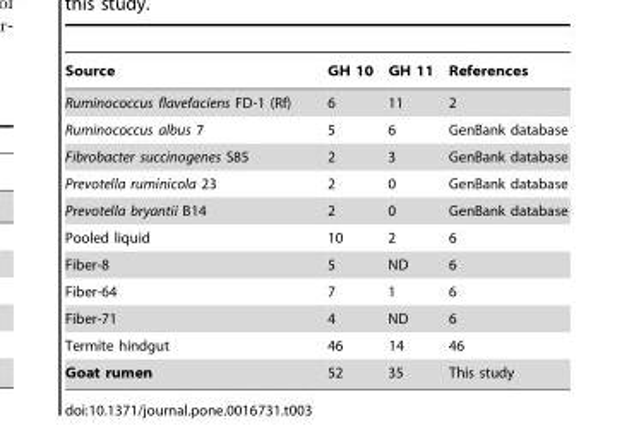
<table><thead><tr><td>Source</td><td>GH 10</td><td>GH 11</td><td>References</td></tr></thead><tbody><tr><td>Ruminococcus flavefaciens FD-1 (Rf)</td><td>6</td><td>11</td><td>2</td></tr><tr><td>Ruminococcus albus 7</td><td>5</td><td>6</td><td>GenBank database</td></tr><tr><td>Fibrobacter succinogenes S85</td><td>2</td><td>3</td><td>GenBank database</td></tr><tr><td>Prevotella ruminicola 23</td><td>2</td><td>0</td><td>GenBank database</td></tr><tr><td>Prevotella bryantii B14</td><td>2</td><td>0</td><td>GenBank database</td></tr><tr><td>Pooled liquid</td><td>10</td><td>2</td><td>6</td></tr><tr><td>Fiber-8</td><td>5</td><td>ND</td><td>6</td></tr><tr><td>Fiber-64</td><td>7</td><td>1</td><td>6</td></tr><tr><td>Fiber-71</td><td>4</td><td>ND</td><td>6</td></tr><tr><td>Termite hindgut</td><td>46</td><td>14</td><td>46</td></tr><tr><td>Goat rumen</td><td>52</td><td>35</td><td>This study</td></tr></tbody></table>